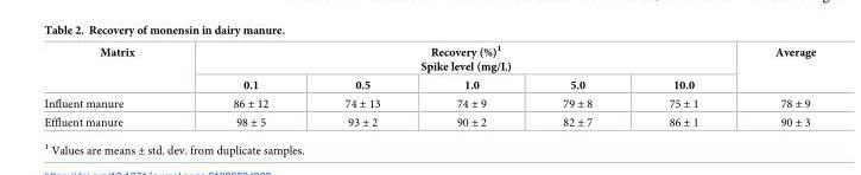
<table><thead><tr><td rowspan="2">Matrix</td><td colspan="5">Recovery (%)<sup>1</sup> Spike level (mg/L)</td><td rowspan="2">Average</td></tr><tr><td>0.1</td><td>0.5</td><td>1.0</td><td>5.0</td><td>10.0</td></tr></thead><tbody><tr><td>Influent manure</td><td>86 ± 12</td><td>74 ± 13</td><td>74 ± 9</td><td>79 ± 8</td><td>75 ± 1</td><td>78 ± 9</td></tr><tr><td>Effluent manure</td><td>98 ± 5</td><td>93 ± 2</td><td>90 ± 2</td><td>82 ± 7</td><td>86 ± 1</td><td>90 ± 3</td></tr></tbody></table>